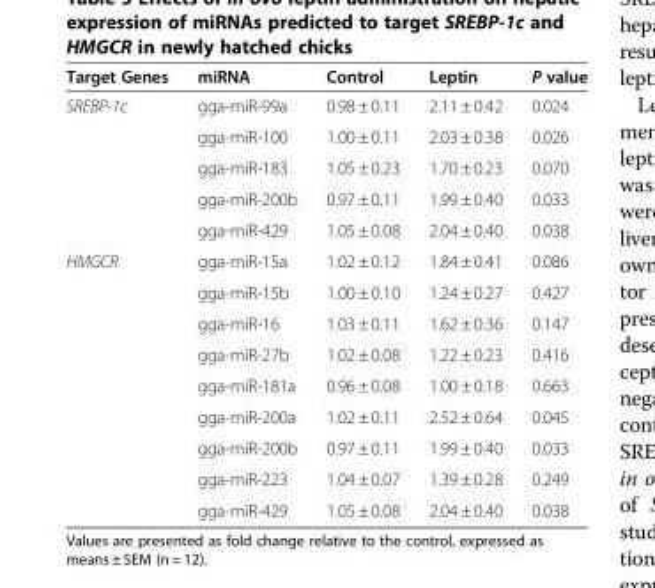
<table><thead><tr><td>Target Genes</td><td>miRNA</td><td>Control</td><td>Leptin</td><td>P value</td></tr></thead><tbody><tr><td rowspan="5">SREBP-1c</td><td>gga-miR-99a</td><td>0.98 ± 0.11</td><td>2.11 ± 0.42</td><td>0.024</td></tr><tr><td>gga-miR-100</td><td>1.00 ± 0.11</td><td>2.03 ± 0.38</td><td>0.026</td></tr><tr><td>gga-miR-183</td><td>1.05 ± 0.23</td><td>1.70 ± 0.23</td><td>0.070</td></tr><tr><td>gga-miR-200b</td><td>0.97 ± 0.11</td><td>1.99 ± 0.40</td><td>0.033</td></tr><tr><td>gga-miR-429</td><td>1.05 ± 0.08</td><td>2.04 ± 0.40</td><td>0.038</td></tr><tr><td rowspan="9">HMGCR</td><td>gga-miR-15a</td><td>1.02 ± 0.12</td><td>1.84 ± 0.41</td><td>0.086</td></tr><tr><td>gga-miR-15b</td><td>1.00 ± 0.10</td><td>1.24 ± 0.27</td><td>0.427</td></tr><tr><td>gga-miR-16</td><td>1.03 ± 0.11</td><td>1.62 ± 0.36</td><td>0.147</td></tr><tr><td>gga-miR-27b</td><td>1.02 ± 0.08</td><td>1.22 ± 0.23</td><td>0.416</td></tr><tr><td>gga-miR-181a</td><td>0.96 ± 0.08</td><td>1.00 ± 0.18</td><td>0.663</td></tr><tr><td>gga-miR-200a</td><td>1.02 ± 0.11</td><td>2.52 ± 0.64</td><td>0.045</td></tr><tr><td>gga-miR-200b</td><td>0.97 ± 0.11</td><td>1.99 ± 0.40</td><td>0.033</td></tr><tr><td>gga-miR-223</td><td>1.04 ± 0.07</td><td>1.39 ± 0.28</td><td>0.249</td></tr><tr><td>gga-miR-429</td><td>1.05 ± 0.08</td><td>2.04 ± 0.40</td><td>0.038</td></tr></tbody></table>